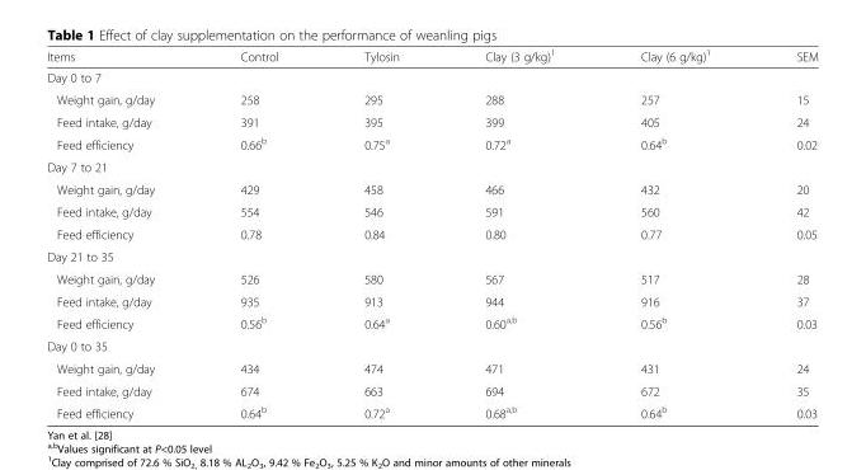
<table><thead><tr><td>Items</td><td>Control</td><td>Tylosin</td><td>Clay (3 g/kg)<sup>1</sup></td><td>Clay (6 g/kg)<sup>1</sup></td><td>SEM</td></tr></thead><tbody><tr><td colspan="6">Day 0 to 7</td></tr><tr><td>Weight gain, g/day</td><td>258</td><td>295</td><td>288</td><td>257</td><td>15</td></tr><tr><td>Feed intake, g/day</td><td>391</td><td>395</td><td>399</td><td>405</td><td>24</td></tr><tr><td>Feed efficiency</td><td>0.66<sup>b</sup></td><td>0.75<sup>a</sup></td><td>0.72<sup>a</sup></td><td>0.64<sup>b</sup></td><td>0.02</td></tr><tr><td colspan="6">Day 7 to 21</td></tr><tr><td>Weight gain, g/day</td><td>429</td><td>458</td><td>466</td><td>432</td><td>20</td></tr><tr><td>Feed intake, g/day</td><td>554</td><td>546</td><td>591</td><td>560</td><td>42</td></tr><tr><td>Feed efficiency</td><td>0.78</td><td>0.84</td><td>0.80</td><td>0.77</td><td>0.05</td></tr><tr><td colspan="6">Day 21 to 35</td></tr><tr><td>Weight gain, g/day</td><td>526</td><td>580</td><td>567</td><td>517</td><td>28</td></tr><tr><td>Feed intake, g/day</td><td>935</td><td>913</td><td>944</td><td>916</td><td>37</td></tr><tr><td>Feed efficiency</td><td>0.56<sup>b</sup></td><td>0.64<sup>a</sup></td><td>0.60<sup>a,b</sup></td><td>0.56<sup>b</sup></td><td>0.03</td></tr><tr><td colspan="6">Day 0 to 35</td></tr><tr><td>Weight gain, g/day</td><td>434</td><td>474</td><td>471</td><td>431</td><td>24</td></tr><tr><td>Feed intake, g/day</td><td>674</td><td>663</td><td>694</td><td>672</td><td>35</td></tr><tr><td>Feed efficiency</td><td>0.64<sup>b</sup></td><td>0.72<sup>a</sup></td><td>0.68<sup>a,b</sup></td><td>0.64<sup>b</sup></td><td>0.03</td></tr></tbody></table>